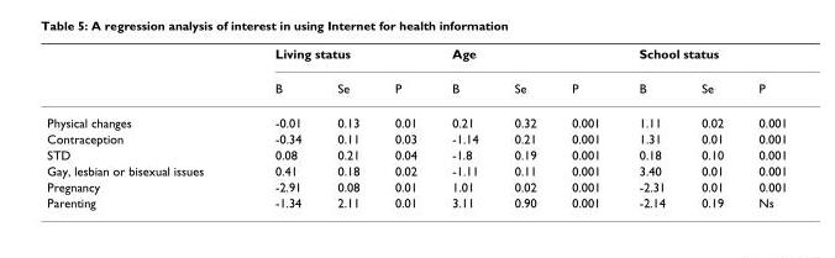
<table><thead><tr><td rowspan="2"></td><td colspan="3">Living status</td><td colspan="3">Age</td><td colspan="3">School status</td></tr><tr><td>B</td><td>Se</td><td>P</td><td>B</td><td>Se</td><td>P</td><td>B</td><td>Se</td><td>P</td></tr></thead><tbody><tr><td>Physical changes</td><td>-0.01</td><td>0.13</td><td>0.01</td><td>0.21</td><td>0.32</td><td>0.001</td><td>1.11</td><td>0.02</td><td>0.001</td></tr><tr><td>Contraception</td><td>-0.34</td><td>0.11</td><td>0.03</td><td>-1.14</td><td>0.21</td><td>0.001</td><td>1.31</td><td>0.01</td><td>0.001</td></tr><tr><td>STD</td><td>0.08</td><td>0.21</td><td>0.04</td><td>-1.8</td><td>0.19</td><td>0.001</td><td>0.18</td><td>0.10</td><td>0.001</td></tr><tr><td>Gay, lesbian or bisexual issues</td><td>0.41</td><td>0.18</td><td>0.02</td><td>-1.11</td><td>0.11</td><td>0.001</td><td>3.40</td><td>0.01</td><td>0.001</td></tr><tr><td>Pregnancy</td><td>-2.91</td><td>0.08</td><td>0.01</td><td>1.01</td><td>0.02</td><td>0.001</td><td>-2.31</td><td>0.01</td><td>0.001</td></tr><tr><td>Parenting</td><td>-1.34</td><td>2.11</td><td>0.01</td><td>3.11</td><td>0.90</td><td>0.001</td><td>-2.14</td><td>0.19</td><td>Ns</td></tr></tbody></table>